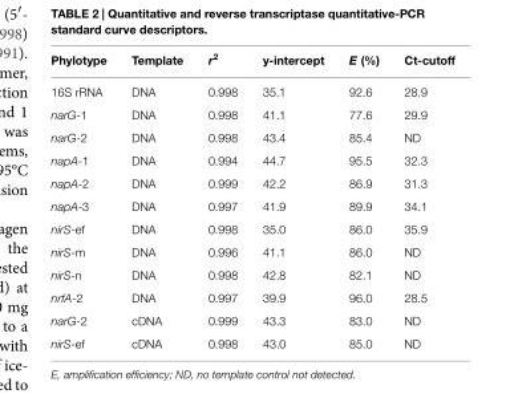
<table><thead><tr><td>Phylotype</td><td>Template</td><td>r<sup>2</sup></td><td>y-intercept</td><td>E (%)</td><td>Ct-cutoff</td></tr></thead><tbody><tr><td>16S rRNA</td><td>DNA</td><td>0.998</td><td>35.1</td><td>92.6</td><td>28.9</td></tr><tr><td>narG-1</td><td>DNA</td><td>0.998</td><td>41.1</td><td>77.6</td><td>29.9</td></tr><tr><td>narG-2</td><td>DNA</td><td>0.998</td><td>43.4</td><td>85.4</td><td>ND</td></tr><tr><td>napA-1</td><td>DNA</td><td>0.994</td><td>44.7</td><td>95.5</td><td>32.3</td></tr><tr><td>napA-2</td><td>DNA</td><td>0.999</td><td>42.2</td><td>86.9</td><td>31.3</td></tr><tr><td>napA-3</td><td>DNA</td><td>0.997</td><td>41.9</td><td>89.9</td><td>34.1</td></tr><tr><td>nirS-ef</td><td>DNA</td><td>0.998</td><td>35.0</td><td>86.0</td><td>35.9</td></tr><tr><td>nirS-m</td><td>DNA</td><td>0.996</td><td>41.1</td><td>86.0</td><td>ND</td></tr><tr><td>nirS-n</td><td>DNA</td><td>0.998</td><td>42.8</td><td>82.1</td><td>ND</td></tr><tr><td>nrfA-2</td><td>DNA</td><td>0.997</td><td>39.9</td><td>96.0</td><td>28.5</td></tr><tr><td>narG-2</td><td>cDNA</td><td>0.999</td><td>43.3</td><td>83.0</td><td>ND</td></tr><tr><td>nirS-ef</td><td>cDNA</td><td>0.998</td><td>43.0</td><td>85.0</td><td>ND</td></tr></tbody></table>